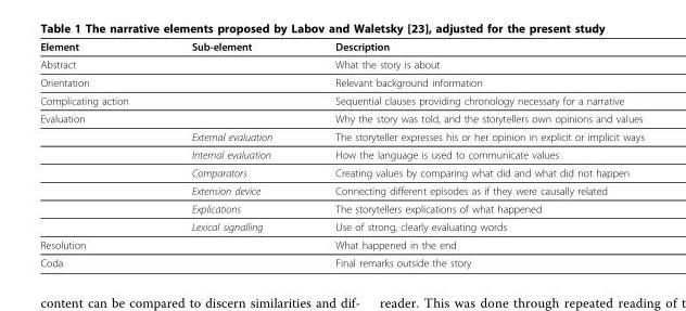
<table><thead><tr><td>Element</td><td>Sub-element</td><td>Description</td></tr></thead><tbody><tr><td>Abstract</td><td></td><td>What the story is about</td></tr><tr><td>Orientation</td><td></td><td>Relevant background information</td></tr><tr><td>Complicating action</td><td></td><td>Sequential clauses providing chronology necessary for a narrative</td></tr><tr><td rowspan="7">Evaluation</td><td></td><td>Why the story was told, and the storytellers own opinions and values</td></tr><tr><td>External evaluation</td><td>The storyteller expresses his or her opinion in explicit or implicit ways</td></tr><tr><td>Internal evaluation</td><td>How the language is used to communicate values</td></tr><tr><td>Comparators</td><td>Creating values by comparing what did and what did not happen</td></tr><tr><td>Extension device</td><td>Connecting different episodes as if they were causally related</td></tr><tr><td>Explications</td><td>The storytellers explications of what happened</td></tr><tr><td>Lexical signalling</td><td>Use of strong, clearly evaluating words</td></tr><tr><td>Resolution</td><td></td><td>What happened in the end</td></tr><tr><td>Coda</td><td></td><td>Final remarks outside the story</td></tr></tbody></table>